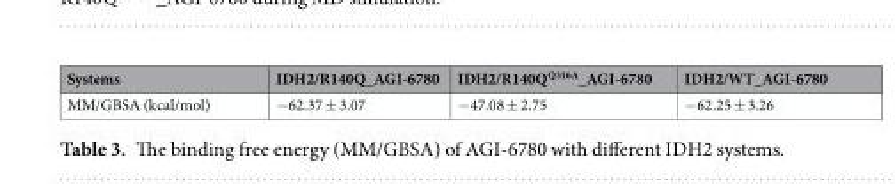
<table><thead><tr><td>Systems</td><td>IDH2/R140Q_AGI-6780</td><td>IDH2/R140Q<sup>Q316A</sup>_AGI-6780</td><td>IDH2/WT_AGI-6780</td></tr></thead><tbody><tr><td>MM/GBSA (kcal/mol)</td><td>−62.37 ± 3.07</td><td>−47.08 ± 2.75</td><td>−62.25 ± 3.26</td></tr></tbody></table>